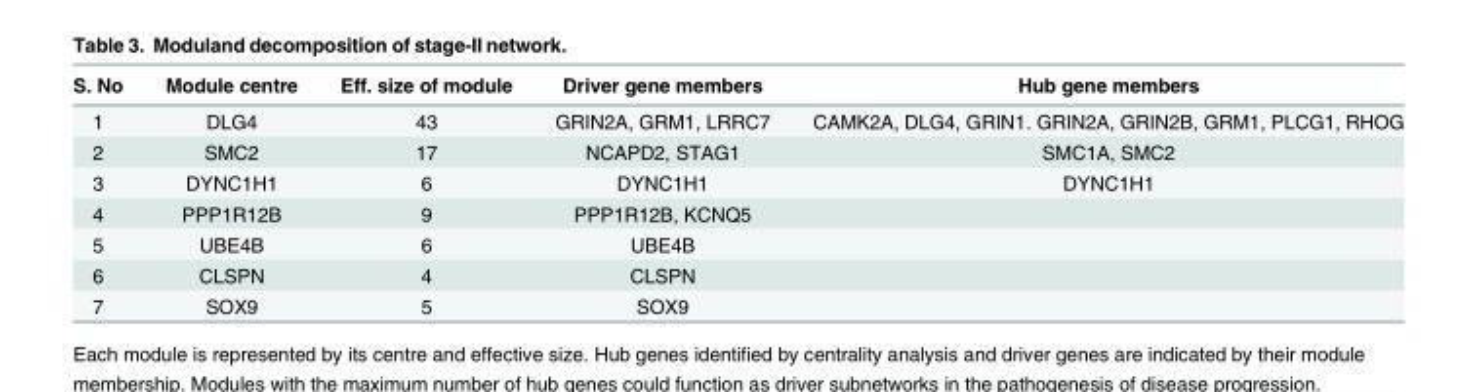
<table><thead><tr><td>S. No</td><td>Module centre</td><td>Eff. size of module</td><td>Driver gene members</td><td>Hub gene members</td></tr></thead><tbody><tr><td>1</td><td>DLG4</td><td>43</td><td>GRIN2A, GRM1, LRRC7</td><td>CAMK2A, DLG4, GRIN1. GRIN2A, GRIN2B, GRM1, PLCG1, RHOG</td></tr><tr><td>2</td><td>SMC2</td><td>17</td><td>NCAPD2, STAG1</td><td>SMC1A, SMC2</td></tr><tr><td>3</td><td>DYNC1H1</td><td>6</td><td>DYNC1H1</td><td>DYNC1H1</td></tr><tr><td>4</td><td>PPP1R12B</td><td>9</td><td>PPP1R12B, KCNQ5</td><td></td></tr><tr><td>5</td><td>UBE4B</td><td>6</td><td>UBE4B</td><td></td></tr><tr><td>6</td><td>CLSPN</td><td>4</td><td>CLSPN</td><td></td></tr><tr><td>7</td><td>SOX9</td><td>5</td><td>SOX9</td><td></td></tr></tbody></table>